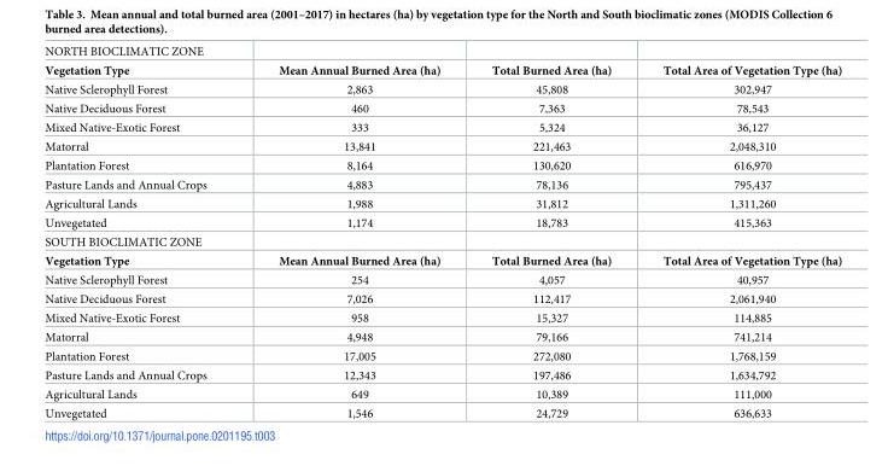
<table><tbody><tr><td colspan="4">NORTH BIOCLIMATIC ZONE</td></tr><tr><td>Vegetation Type</td><td>Mean Annual Burned Area (ha)</td><td>Total Burned Area (ha)</td><td>Total Area of Vegetation Type (ha)</td></tr><tr><td>Native Sclerophyll Forest</td><td>2,863</td><td>45,808</td><td>302,947</td></tr><tr><td>Native Deciduous Forest</td><td>460</td><td>7,363</td><td>78,543</td></tr><tr><td>Mixed Native-Exotic Forest</td><td>333</td><td>5,324</td><td>36,127</td></tr><tr><td>Matorral</td><td>13,841</td><td>221,463</td><td>2,048,310</td></tr><tr><td>Plantation Forest</td><td>8,164</td><td>130,620</td><td>616,970</td></tr><tr><td>Pasture Lands and Annual Crops</td><td>4,883</td><td>78,136</td><td>795,437</td></tr><tr><td>Agricultural Lands</td><td>1,988</td><td>31,812</td><td>1,311,260</td></tr><tr><td>Unvegetated</td><td>1,174</td><td>18,783</td><td>415,363</td></tr><tr><td colspan="4">SOUTH BIOCLIMATIC ZONE</td></tr><tr><td>Vegetation Type</td><td>Mean Annual Burned Area (ha)</td><td>Total Burned Area (ha)</td><td>Total Area of Vegetation Type (ha)</td></tr><tr><td>Native Sclerophyll Forest</td><td>254</td><td>4,057</td><td>40,957</td></tr><tr><td>Native Deciduous Forest</td><td>7,026</td><td>112,417</td><td>2,061,940</td></tr><tr><td>Mixed Native-Exotic Forest</td><td>958</td><td>15,327</td><td>114,885</td></tr><tr><td>Matorral</td><td>4,948</td><td>79,166</td><td>741,214</td></tr><tr><td>Plantation Forest</td><td>17,005</td><td>272,080</td><td>1,768,159</td></tr><tr><td>Pasture Lands and Annual Crops</td><td>12,343</td><td>197,486</td><td>1,634,792</td></tr><tr><td>Agricultural Lands</td><td>649</td><td>10,389</td><td>111,000</td></tr><tr><td>Unvegetated</td><td>1,546</td><td>24,729</td><td>636,633</td></tr></tbody></table>